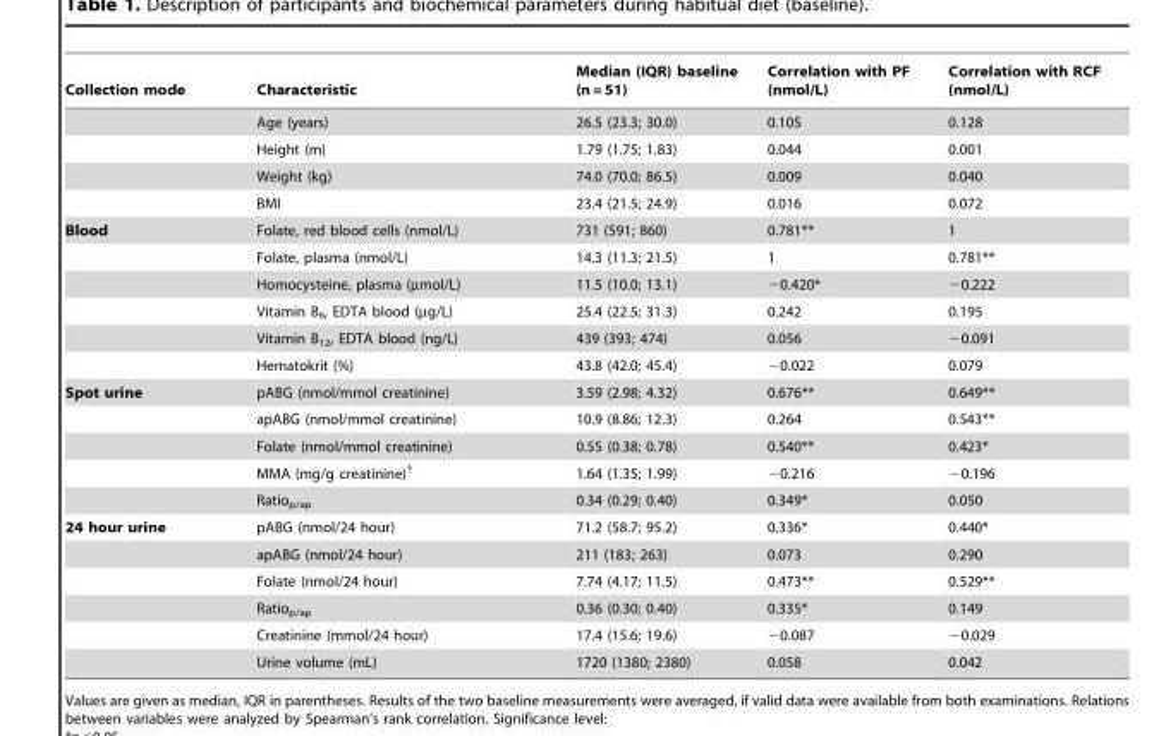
<table><thead><tr><td>Collection mode</td><td>Characteristic</td><td>Median (IQR) baseline (n = 51)</td><td>Correlation with PF (nmol/L)</td><td>Correlation with RCF (nmol/L)</td></tr></thead><tbody><tr><td></td><td>Age (years)</td><td>26.5 (23.3; 30.0)</td><td>0.105</td><td>0.128</td></tr><tr><td></td><td>Height (m)</td><td>1.79 (1.75; 1.83)</td><td>0.044</td><td>0.001</td></tr><tr><td></td><td>Weight (kg)</td><td>74.0 (70.0; 86.5)</td><td>0.009</td><td>0.040</td></tr><tr><td></td><td>BMI</td><td>23.4 (21.5; 24.9)</td><td>0.016</td><td>0.072</td></tr><tr><td rowspan="6">Blood</td><td>Folate, red blood cells (nmol/L)</td><td>731 (591; 860)</td><td>0.781**</td><td>1</td></tr><tr><td>Folate, plasma (nmol/L)</td><td>14.3 (11.3; 21.5)</td><td>1</td><td>0.781**</td></tr><tr><td>Homocysteine, plasma (µmol/L)</td><td>11.5 (10.0; 13.1)</td><td>−0.420*</td><td>−0.222</td></tr><tr><td>Vitamin B<sub>6</sub>, EDTA blood (µg/L)</td><td>25.4 (22.5; 31.3)</td><td>0.242</td><td>0.195</td></tr><tr><td>Vitamin B<sub>12</sub>, EDTA blood (ng/L)</td><td>439 (393; 474)</td><td>0.056</td><td>−0.091</td></tr><tr><td>Hematokrit (%)</td><td>43.8 (42.0; 45.4)</td><td>−0.022</td><td>0.079</td></tr><tr><td rowspan="5">Spot urine</td><td>pABG (nmol/mmol creatinine)</td><td>3.59 (2.98; 4.32)</td><td>0.676**</td><td>0.649**</td></tr><tr><td>apABG (nmol/mmol creatinine)</td><td>10.9 (8.86; 12.3)</td><td>0.264</td><td>0.543**</td></tr><tr><td>Folate (nmol/mmol creatinine)</td><td>0.55 (0.38; 0.78)</td><td>0.540**</td><td>0.423*</td></tr><tr><td>MMA (mg/g creatinine)†</td><td>1.64 (1.35; 1.99)</td><td>−0.216</td><td>−0.196</td></tr><tr><td>Ratio<sub>p/ap</sub></td><td>0.34 (0.29; 0.40)</td><td>0.349*</td><td>0.050</td></tr><tr><td rowspan="6">24 hour urine</td><td>pABG (nmol/24 hour)</td><td>71.2 (58.7; 95.2)</td><td>0.336*</td><td>0.440*</td></tr><tr><td>apABG (nmol/24 hour)</td><td>211 (183; 263)</td><td>0.073</td><td>0.290</td></tr><tr><td>Folate (nmol/24 hour)</td><td>7.74 (4.17; 11.5)</td><td>0.473**</td><td>0.529**</td></tr><tr><td>Ratio<sub>p/ap</sub></td><td>0.36 (0.30; 0.40)</td><td>0.335*</td><td>0.149</td></tr><tr><td>Creatinine (mmol/24 hour)</td><td>17.4 (15.6; 19.6)</td><td>−0.087</td><td>−0.029</td></tr><tr><td>Urine volume (mL)</td><td>1720 (1380; 2380)</td><td>0.058</td><td>0.042</td></tr></tbody></table>